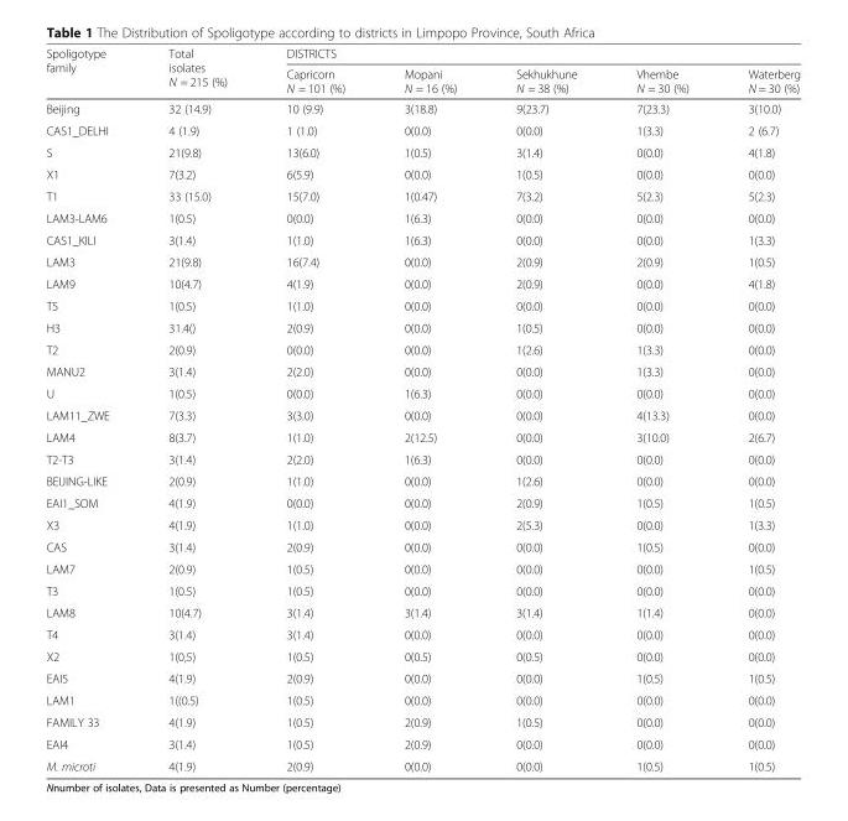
<table><thead><tr><td rowspan="2">Spoligotype family</td><td rowspan="2">Total isolates N = 215 (%)</td><td colspan="5">DISTRICTS</td></tr><tr><td>Capricorn N = 101 (%)</td><td>Mopani N = 16 (%)</td><td>Sekhukhune N = 38 (%)</td><td>Vhembe N = 30 (%)</td><td>Waterberg N = 30 (%)</td></tr></thead><tbody><tr><td>Beijing</td><td>32 (14.9)</td><td>10 (9.9)</td><td>3(18.8)</td><td>9(23.7)</td><td>7(23.3)</td><td>3(10.0)</td></tr><tr><td>CAS1_DELHI</td><td>4 (1.9)</td><td>1 (1.0)</td><td>0(0.0)</td><td>0(0.0)</td><td>1(3.3)</td><td>2 (6.7)</td></tr><tr><td>S</td><td>21(9.8)</td><td>13(6.0)</td><td>1(0.5)</td><td>3(1.4)</td><td>0(0.0)</td><td>4(1.8)</td></tr><tr><td>X1</td><td>7(3.2)</td><td>6(5.9)</td><td>0(0.0)</td><td>1(0.5)</td><td>0(0.0)</td><td>0(0.0)</td></tr><tr><td>T1</td><td>33 (15.0)</td><td>15(7.0)</td><td>1(0.47)</td><td>7(3.2)</td><td>5(2.3)</td><td>5(2.3)</td></tr><tr><td>LAM3-LAM6</td><td>1(0.5)</td><td>0(0.0)</td><td>1(6.3)</td><td>0(0.0)</td><td>0(0.0)</td><td>0(0.0)</td></tr><tr><td>CAS1_KILI</td><td>3(1.4)</td><td>1(1.0)</td><td>1(6.3)</td><td>0(0.0)</td><td>0(0.0)</td><td>1(3.3)</td></tr><tr><td>LAM3</td><td>21(9.8)</td><td>16(7.4)</td><td>0(0.0)</td><td>2(0.9)</td><td>2(0.9)</td><td>1(0.5)</td></tr><tr><td>LAM9</td><td>10(4.7)</td><td>4(1.9)</td><td>0(0.0)</td><td>2(0.9)</td><td>0(0.0)</td><td>4(1.8)</td></tr><tr><td>T5</td><td>1(0.5)</td><td>1(1.0)</td><td>0(0.0)</td><td>0(0.0)</td><td>0(0.0)</td><td>0(0.0)</td></tr><tr><td>H3</td><td>31.4()</td><td>2(0.9)</td><td>0(0.0)</td><td>1(0.5)</td><td>0(0.0)</td><td>0(0.0)</td></tr><tr><td>T2</td><td>2(0.9)</td><td>0(0.0)</td><td>0(0.0)</td><td>1(2.6)</td><td>1(3.3)</td><td>0(0.0)</td></tr><tr><td>MANU2</td><td>3(1.4)</td><td>2(2.0)</td><td>0(0.0)</td><td>0(0.0)</td><td>1(3.3)</td><td>0(0.0)</td></tr><tr><td>U</td><td>1(0.5)</td><td>0(0.0)</td><td>1(6.3)</td><td>0(0.0)</td><td>0(0.0)</td><td>0(0.0)</td></tr><tr><td>LAM11_ZWE</td><td>7(3.3)</td><td>3(3.0)</td><td>0(0.0)</td><td>0(0.0)</td><td>4(13.3)</td><td>0(0.0)</td></tr><tr><td>LAM4</td><td>8(3.7)</td><td>1(1.0)</td><td>2(12.5)</td><td>0(0.0)</td><td>3(10.0)</td><td>2(6.7)</td></tr><tr><td>T2-T3</td><td>3(1.4)</td><td>2(2.0)</td><td>1(6.3)</td><td>0(0.0)</td><td>0(0.0)</td><td>0(0.0)</td></tr><tr><td>BEIJING-LIKE</td><td>2(0.9)</td><td>1(1.0)</td><td>0(0.0)</td><td>1(2.6)</td><td>0(0.0)</td><td>0(0.0)</td></tr><tr><td>EAI1_SOM</td><td>4(1.9)</td><td>0(0.0)</td><td>0(0.0)</td><td>2(0.9)</td><td>1(0.5)</td><td>1(0.5)</td></tr><tr><td>X3</td><td>4(1.9)</td><td>1(1.0)</td><td>0(0.0)</td><td>2(5.3)</td><td>0(0.0)</td><td>1(3.3)</td></tr><tr><td>CAS</td><td>3(1.4)</td><td>2(0.9)</td><td>0(0.0)</td><td>0(0.0)</td><td>1(0.5)</td><td>0(0.0)</td></tr><tr><td>LAM7</td><td>2(0.9)</td><td>1(0.5)</td><td>0(0.0)</td><td>0(0.0)</td><td>0(0.0)</td><td>1(0.5)</td></tr><tr><td>T3</td><td>1(0.5)</td><td>1(0.5)</td><td>0(0.0)</td><td>0(0.0)</td><td>0(0.0)</td><td>0(0.0)</td></tr><tr><td>LAM8</td><td>10(4.7)</td><td>3(1.4)</td><td>3(1.4)</td><td>3(1.4)</td><td>1(1.4)</td><td>0(0.0)</td></tr><tr><td>T4</td><td>3(1.4)</td><td>3(1.4)</td><td>0(0.0)</td><td>0(0.0)</td><td>0(0.0)</td><td>0(0.0)</td></tr><tr><td>X2</td><td>1(0,5)</td><td>1(0.5)</td><td>0(0.5)</td><td>0(0.5)</td><td>0(0.0)</td><td>0(0.0)</td></tr><tr><td>EAI5</td><td>4(1.9)</td><td>2(0.9)</td><td>0(0.0)</td><td>0(0.0)</td><td>1(0.5)</td><td>1(0.5)</td></tr><tr><td>LAM1</td><td>1((0.5)</td><td>1(0.5)</td><td>0(0.0)</td><td>0(0.0)</td><td>0(0.0)</td><td>0(0.0)</td></tr><tr><td>FAMILY 33</td><td>4(1.9)</td><td>1(0.5)</td><td>2(0.9)</td><td>1(0.5)</td><td>0(0.0)</td><td>0(0.0)</td></tr><tr><td>EAI4</td><td>3(1.4)</td><td>1(0.5)</td><td>2(0.9)</td><td>0(0.0)</td><td>0(0.0)</td><td>0(0.0)</td></tr><tr><td>M. microti</td><td>4(1.9)</td><td>2(0.9)</td><td>0(0.0)</td><td>0(0.0)</td><td>1(0.5)</td><td>1(0.5)</td></tr></tbody></table>